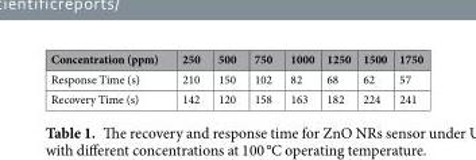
<table><thead><tr><td>Concentration (ppm)</td><td>250</td><td>500</td><td>750</td><td>1000</td><td>1250</td><td>1500</td><td>1750</td></tr></thead><tbody><tr><td>Response Time (s)</td><td>210</td><td>150</td><td>102</td><td>82</td><td>68</td><td>62</td><td>57</td></tr><tr><td>Recovery Time (s)</td><td>142</td><td>120</td><td>158</td><td>163</td><td>182</td><td>224</td><td>241</td></tr></tbody></table>